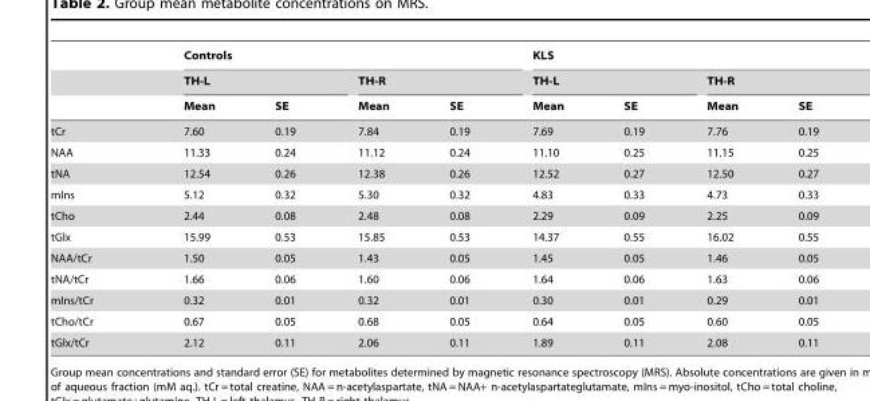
<table><thead><tr><td rowspan="3"></td><td colspan="4">Controls</td><td colspan="4">KLS</td></tr><tr><td colspan="2">TH-L</td><td colspan="2">TH-R</td><td colspan="2">TH-L</td><td colspan="2">TH-R</td></tr><tr><td>Mean</td><td>SE</td><td>Mean</td><td>SE</td><td>Mean</td><td>SE</td><td>Mean</td><td>SE</td></tr></thead><tbody><tr><td>tCr</td><td>7.60</td><td>0.19</td><td>7.84</td><td>0.19</td><td>7.69</td><td>0.19</td><td>7.76</td><td>0.19</td></tr><tr><td>NAA</td><td>11.33</td><td>0.24</td><td>11.12</td><td>0.24</td><td>11.10</td><td>0.25</td><td>11.15</td><td>0.25</td></tr><tr><td>tNA</td><td>12.54</td><td>0.26</td><td>12.38</td><td>0.26</td><td>12.52</td><td>0.27</td><td>12.50</td><td>0.27</td></tr><tr><td>mIns</td><td>5.12</td><td>0.32</td><td>5.30</td><td>0.32</td><td>4.83</td><td>0.33</td><td>4.73</td><td>0.33</td></tr><tr><td>tCho</td><td>2.44</td><td>0.08</td><td>2.48</td><td>0.08</td><td>2.29</td><td>0.09</td><td>2.25</td><td>0.09</td></tr><tr><td>tGlx</td><td>15.99</td><td>0.53</td><td>15.85</td><td>0.53</td><td>14.37</td><td>0.55</td><td>16.02</td><td>0.55</td></tr><tr><td>NAA/tCr</td><td>1.50</td><td>0.05</td><td>1.43</td><td>0.05</td><td>1.45</td><td>0.05</td><td>1.46</td><td>0.05</td></tr><tr><td>tNA/tCr</td><td>1.66</td><td>0.06</td><td>1.60</td><td>0.06</td><td>1.64</td><td>0.06</td><td>1.63</td><td>0.06</td></tr><tr><td>mIns/tCr</td><td>0.32</td><td>0.01</td><td>0.32</td><td>0.01</td><td>0.30</td><td>0.01</td><td>0.29</td><td>0.01</td></tr><tr><td>tCho/tCr</td><td>0.67</td><td>0.05</td><td>0.68</td><td>0.05</td><td>0.64</td><td>0.05</td><td>0.60</td><td>0.05</td></tr><tr><td>tGlx/tCr</td><td>2.12</td><td>0.11</td><td>2.06</td><td>0.11</td><td>1.89</td><td>0.11</td><td>2.08</td><td>0.11</td></tr></tbody></table>